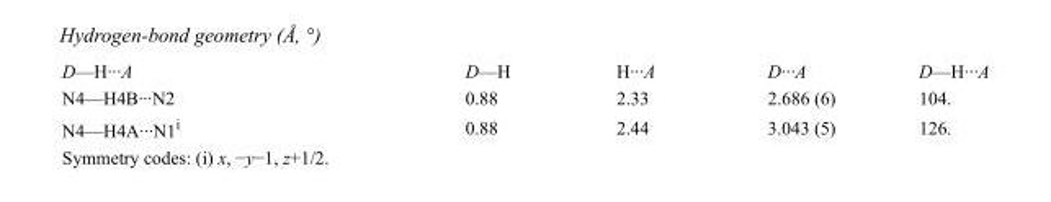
<table><tbody><tr><td>D—H···A</td><td>D—H</td><td>H···A</td><td>D···A</td><td>D—H···A</td></tr><tr><td>N4—H4B···N2</td><td>0.88</td><td>2.33</td><td>2.686 (6)</td><td>104.</td></tr><tr><td>N4—H4A···N1<sup>i</sup></td><td>0.88</td><td>2.44</td><td>3.043 (5)</td><td>126.</td></tr></tbody></table>